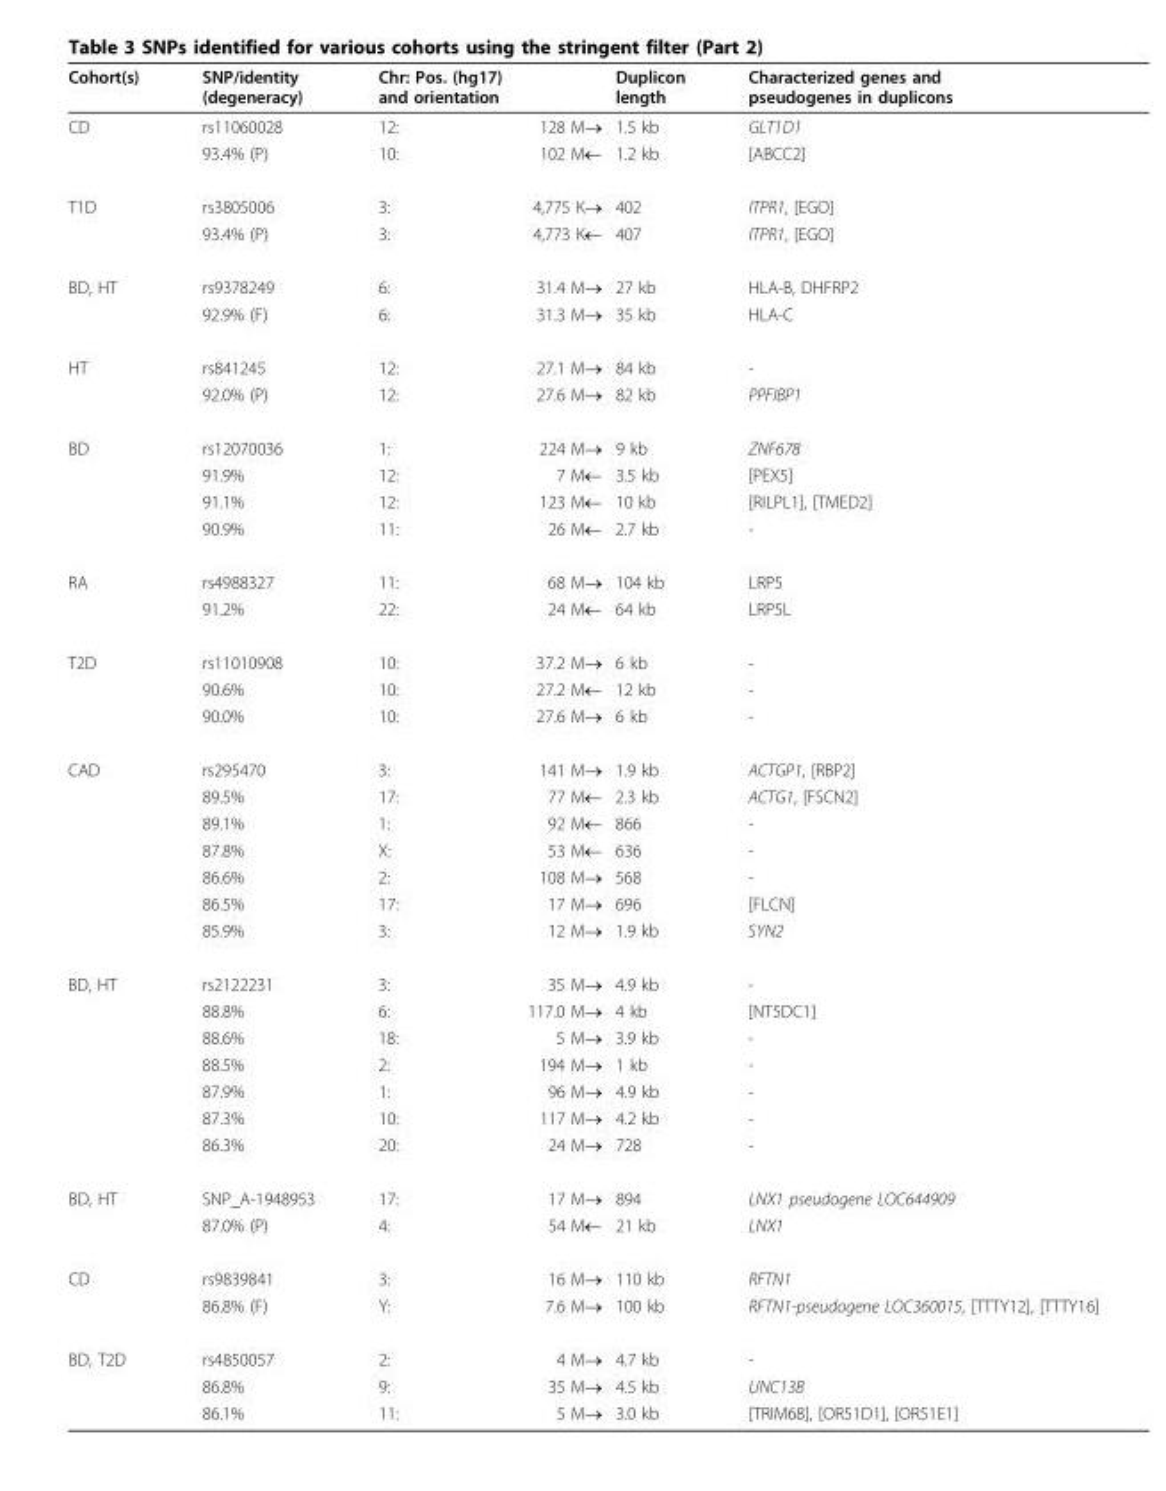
<table><thead><tr><td rowspan="2">Cohort(s) CD</td><td rowspan="2">SNP/identity (degeneracy) rs11060028</td><td colspan="2">Chr: Pos. (hg17) and orientation</td><td rowspan="2">Duplicon length 1.5 kb</td><td rowspan="2">Characterized genes and pseudogenes in duplicons GLT1D1</td></tr><tr><td>12:</td><td>128 M→</td></tr></thead><tbody><tr><td></td><td>93.4% (P)</td><td>10:</td><td>102 M¬</td><td>1.2 kb</td><td>[ABCC2]</td></tr><tr><td rowspan="2">T1D</td><td>rs3805006</td><td>3:</td><td>4,775 K→</td><td>402</td><td>ITPR1, [EGO]</td></tr><tr><td>93.4% (P)</td><td>3:</td><td>4,773 K¬</td><td>407</td><td>ITPR1, [EGO]</td></tr><tr><td rowspan="2">BD, HT</td><td>rs9378249</td><td>6:</td><td>31.4 M→</td><td>27 kb</td><td>HLA-B, DHFRP2</td></tr><tr><td>92.9% (F)</td><td>6:</td><td>31.3 M→</td><td>35 kb</td><td>HLA-C</td></tr><tr><td rowspan="2">HT</td><td>rs841245</td><td>12:</td><td>27.1 M→</td><td>84 kb</td><td>-</td></tr><tr><td>92.0% (P)</td><td>12:</td><td>27.6 M→</td><td>82 kb</td><td>PPFIBP1</td></tr><tr><td rowspan="4">BD</td><td>rs12070036</td><td>1:</td><td>224 M→</td><td>9 kb</td><td>ZNF678</td></tr><tr><td>91.9%</td><td>12:</td><td>7 M¬</td><td>3.5 kb</td><td>[PEX5]</td></tr><tr><td>91.1%</td><td>12:</td><td>123 M¬</td><td>10 kb</td><td>[RILPL1], [TMED2]</td></tr><tr><td>90.9%</td><td>11:</td><td>26 M¬</td><td>2.7 kb</td><td>-</td></tr><tr><td rowspan="2">RA</td><td>rs4988327</td><td>11:</td><td>68 M→</td><td>104 kb</td><td>LRP5</td></tr><tr><td>91.2%</td><td>22:</td><td>24 M¬</td><td>64 kb</td><td>LRP5L</td></tr><tr><td rowspan="3">T2D</td><td>rs11010908</td><td>10:</td><td>37.2 M→</td><td>6 kb</td><td>-</td></tr><tr><td>90.6%</td><td>10:</td><td>27.2 M¬</td><td>12 kb</td><td>-</td></tr><tr><td>90.0%</td><td>10:</td><td>27.6 M→</td><td>6 kb</td><td>-</td></tr><tr><td rowspan="7">CAD</td><td>rs295470</td><td>3:</td><td>141 M→</td><td>1.9 kb</td><td>ACTGP1, [RBP2]</td></tr><tr><td>89.5%</td><td>17:</td><td>77 M¬</td><td>2.3 kb</td><td>ACTG1, [FSCN2]</td></tr><tr><td>89.1%</td><td>1:</td><td>92 M¬</td><td>866</td><td>-</td></tr><tr><td>87.8%</td><td>X:</td><td>53 M¬</td><td>636</td><td>-</td></tr><tr><td>86.6%</td><td>2:</td><td>108 M→</td><td>568</td><td>-</td></tr><tr><td>86.5%</td><td>17:</td><td>17 M→</td><td>696</td><td>[FLCN]</td></tr><tr><td>85.9%</td><td>3:</td><td>12 M→</td><td>1.9 kb</td><td>SYN2</td></tr><tr><td rowspan="7">BD, HT</td><td>rs2122231</td><td>3:</td><td>35 M→</td><td>4.9 kb</td><td>-</td></tr><tr><td>88.8%</td><td>6:</td><td>117.0 M→</td><td>4 kb</td><td>[NT5DC1]</td></tr><tr><td>88.6%</td><td>18:</td><td>5 M→</td><td>3.9 kb</td><td>-</td></tr><tr><td>88.5%</td><td>2:</td><td>194 M→</td><td>1 kb</td><td>-</td></tr><tr><td>87.9%</td><td>1:</td><td>96 M→</td><td>4.9 kb</td><td>-</td></tr><tr><td>87.3%</td><td>10:</td><td>117 M→</td><td>4.2 kb</td><td>-</td></tr><tr><td>86.3%</td><td>20:</td><td>24 M→</td><td>728</td><td>-</td></tr><tr><td rowspan="2">BD, HT</td><td>SNP_A-1948953</td><td>17:</td><td>17 M→</td><td>894</td><td>LNX1 pseudogene LOC644909</td></tr><tr><td>87.0% (P)</td><td>4:</td><td>54 M¬</td><td>21 kb</td><td>LNX1</td></tr><tr><td rowspan="2">CD</td><td>rs9839841</td><td>3:</td><td>16 M→</td><td>110 kb</td><td>RFTN1</td></tr><tr><td>86.8% (F)</td><td>Y:</td><td>7.6 M→</td><td>100 kb</td><td>RFTN1-pseudogene LOC360015, [TTTY12], [TTTY16]</td></tr><tr><td rowspan="3">BD, T2D</td><td>rs4850057</td><td>2:</td><td>4 M→</td><td>4.7 kb</td><td>-</td></tr><tr><td>86.8%</td><td>9:</td><td>35 M→</td><td>4.5 kb</td><td>UNC13B</td></tr><tr><td>86.1%</td><td>11:</td><td>5 M→</td><td>3.0 kb</td><td>[TRIM68], [OR51D1], [OR51E1]</td></tr></tbody></table>